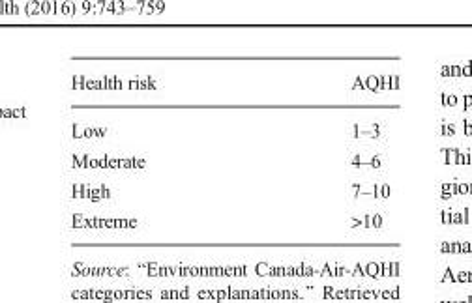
<table><thead><tr><td>Health risk</td><td>AQHI</td></tr></thead><tbody><tr><td>Low</td><td>1–3</td></tr><tr><td>Moderate</td><td>4–6</td></tr><tr><td>High</td><td>7–10</td></tr><tr><td>Extreme</td><td>&gt;10</td></tr></tbody></table>